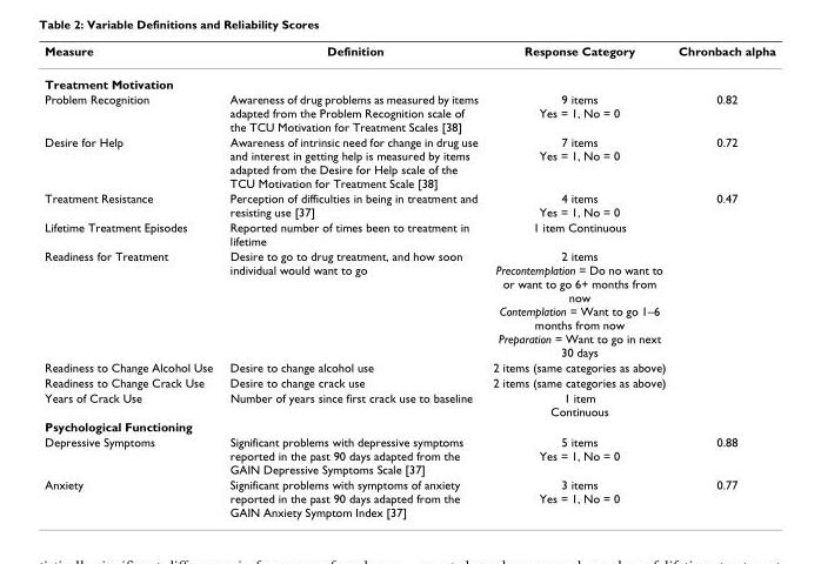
<table><thead><tr><td>Measure</td><td>Definition</td><td>Response Category</td><td>Chronbach alpha</td></tr></thead><tbody><tr><td colspan="4">Treatment Motivation</td></tr><tr><td>Problem Recognition</td><td>Awareness of drug problems as measured by items adapted from the Problem Recognition scale of the TCU Motivation for Treatment Scales [38]</td><td>9 items Yes = 1, No = 0</td><td>0.82</td></tr><tr><td>Desire for Help</td><td>Awareness of intrinsic need for change in drug use and interest in getting help is measured by items adapted from the Desire for Help scale of the TCU Motivation for Treatment Scale [38]</td><td>7 items Yes = 1, No = 0</td><td>0.72</td></tr><tr><td>Treatment Resistance</td><td>Perception of difficulties in being in treatment and resisting use [37]</td><td>4 items Yes = 1, No = 0</td><td>0.47</td></tr><tr><td>Lifetime Treatment Episodes</td><td>Reported number of times been to treatment in lifetime</td><td>1 item Continuous</td><td></td></tr><tr><td>Readiness for Treatment</td><td>Desire to go to drug treatment, and how soon individual would want to go</td><td>2 items Precontemplation = Do no want to or want to go 6+ months from now Contemplation = Want to go 1–6 months from now Preparation = Want to go in next 30 days</td><td></td></tr><tr><td>Readiness to Change Alcohol Use</td><td>Desire to change alcohol use</td><td>2 items (same categories as above)</td><td></td></tr><tr><td>Readiness to Change Crack Use</td><td>Desire to change crack use</td><td>2 items (same categories as above)</td><td></td></tr><tr><td>Years of Crack Use</td><td>Number of years since first crack use to baseline</td><td>1 item Continuous</td><td></td></tr><tr><td colspan="4">Psychological Functioning</td></tr><tr><td>Depressive Symptoms</td><td>Significant problems with depressive symptoms reported in the past 90 days adapted from the GAIN Depressive Symptoms Scale [37]</td><td>5 items Yes = 1, No = 0</td><td>0.88</td></tr><tr><td>Anxiety</td><td>Significant problems with symptoms of anxiety reported in the past 90 days adapted from the GAIN Anxiety Symptom Index [37]</td><td>3 items Yes = 1, No = 0</td><td>0.77</td></tr></tbody></table>